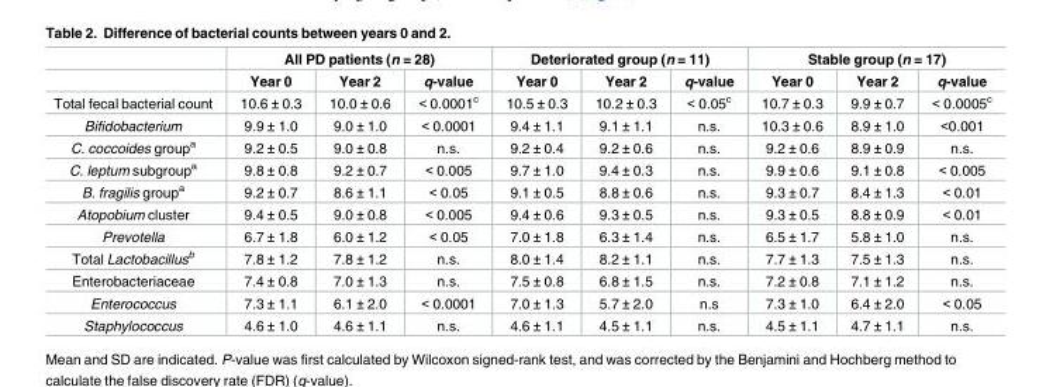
<table><thead><tr><td rowspan="2"></td><td colspan="3">All PD patients (n = 28)</td><td colspan="3">Deteriorated group (n = 11)</td><td colspan="3">Stable group (n = 17)</td></tr><tr><td>Year 0</td><td>Year 2</td><td>q-value</td><td>Year 0</td><td>Year 2</td><td>q-value</td><td>Year 0</td><td>Year 2</td><td>q-value</td></tr></thead><tbody><tr><td>Total fecal bacterial count</td><td>10.6 ± 0.3</td><td>10.0 ± 0.6</td><td>&lt; 0.0001<sup>c</sup></td><td>10.5 ± 0.3</td><td>10.2 ± 0.3</td><td>&lt; 0.05<sup>c</sup></td><td>10.7 ± 0.3</td><td>9.9 ± 0.7</td><td>&lt; 0.0005<sup>c</sup></td></tr><tr><td>Bifidobacterium</td><td>9.9 ± 1.0</td><td>9.0 ± 1.0</td><td>&lt; 0.0001</td><td>9.4 ± 1.1</td><td>9.1 ± 1.1</td><td>n.s.</td><td>10.3 ± 0.6</td><td>8.9 ± 1.0</td><td>&lt;0.001</td></tr><tr><td>C. coccoides group<sup>a</sup></td><td>9.2 ± 0.5</td><td>9.0 ± 0.8</td><td>n.s.</td><td>9.2 ± 0.4</td><td>9.2 ± 0.6</td><td>n.s.</td><td>9.2 ± 0.6</td><td>8.9 ± 0.9</td><td>n.s.</td></tr><tr><td>C. leptum subgroup<sup>a</sup></td><td>9.8 ± 0.8</td><td>9.2 ± 0.7</td><td>&lt; 0.005</td><td>9.7 ± 1.0</td><td>9.4 ± 0.3</td><td>n.s.</td><td>9.9 ± 0.6</td><td>9.1 ± 0.8</td><td>&lt; 0.005</td></tr><tr><td>B. fragilis group<sup>a</sup></td><td>9.2 ± 0.7</td><td>8.6 ± 1.1</td><td>&lt; 0.05</td><td>9.1 ± 0.5</td><td>8.8 ± 0.6</td><td>n.s.</td><td>9.3 ± 0.7</td><td>8.4 ± 1.3</td><td>&lt; 0.01</td></tr><tr><td>Atopobium cluster</td><td>9.4 ± 0.5</td><td>9.0 ± 0.8</td><td>&lt; 0.005</td><td>9.4 ± 0.6</td><td>9.3 ± 0.5</td><td>n.s.</td><td>9.3 ± 0.5</td><td>8.8 ± 0.9</td><td>&lt; 0.01</td></tr><tr><td>Prevotella</td><td>6.7 ± 1.8</td><td>6.0 ± 1.2</td><td>&lt; 0.05</td><td>7.0 ± 1.8</td><td>6.3 ± 1.4</td><td>n.s.</td><td>6.5 ± 1.7</td><td>5.8 ± 1.0</td><td>n.s.</td></tr><tr><td>Total Lactobacillus<sup>b</sup></td><td>7.8 ± 1.2</td><td>7.8 ± 1.2</td><td>n.s.</td><td>8.0 ± 1.4</td><td>8.2 ± 1.1</td><td>n.s.</td><td>7.7 ± 1.3</td><td>7.5 ± 1.3</td><td>n.s.</td></tr><tr><td>Enterobacteriaceae</td><td>7.4 ± 0.8</td><td>7.0 ± 1.3</td><td>n.s.</td><td>7.5 ± 0.8</td><td>6.8 ± 1.5</td><td>n.s.</td><td>7.2 ± 0.8</td><td>7.1 ± 1.2</td><td>n.s.</td></tr><tr><td>Enterococcus</td><td>7.3 ± 1.1</td><td>6.1 ± 2.0</td><td>&lt; 0.0001</td><td>7.0 ± 1.3</td><td>5.7 ± 2.0</td><td>n.s</td><td>7.3 ± 1.0</td><td>6.4 ± 2.0</td><td>&lt; 0.05</td></tr><tr><td>Staphylococcus</td><td>4.6 ± 1.0</td><td>4.6 ± 1.1</td><td>n.s.</td><td>4.6 ± 1.1</td><td>4.5 ± 1.1</td><td>n.s.</td><td>4.5 ± 1.1</td><td>4.7 ± 1.1</td><td>n.s.</td></tr></tbody></table>